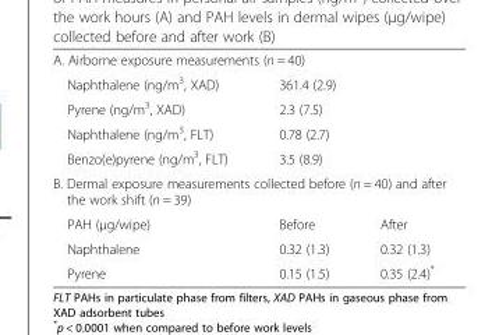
<table><tbody><tr><td colspan="3">A. Airborne exposure measurements (n = 40)</td></tr><tr><td>Naphthalene (ng/m<sup>3</sup>, XAD)</td><td colspan="2">361.4 (2.9)</td></tr><tr><td>Pyrene (ng/m<sup>3</sup>, XAD)</td><td colspan="2">2.3 (7.5)</td></tr><tr><td>Naphthalene (ng/m<sup>3</sup>, FLT)</td><td colspan="2">0.78 (2.7)</td></tr><tr><td>Benzo(e)pyrene (ng/m<sup>3</sup>, FLT)</td><td colspan="2">3.5 (8.9)</td></tr><tr><td colspan="3">B. Dermal exposure measurements collected before (n = 40) and after the work shift (n = 39)</td></tr><tr><td>PAH (μg/wipe)</td><td>Before</td><td>After</td></tr><tr><td>Naphthalene</td><td>0.32 (1.3)</td><td>0.32 (1.3)</td></tr><tr><td>Pyrene</td><td>0.15 (1.5)</td><td>0.35 (2.4)*</td></tr></tbody></table>